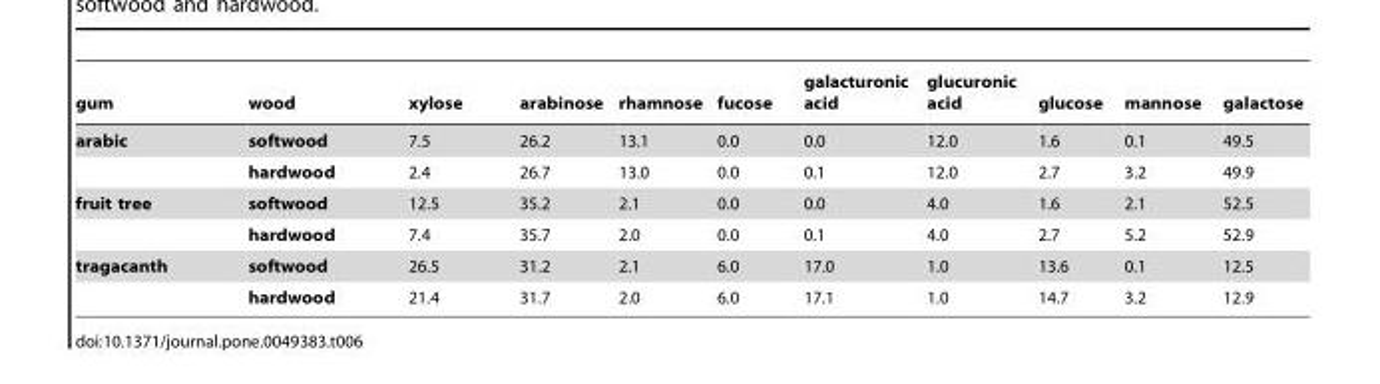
<table><thead><tr><td>gum</td><td>wood</td><td>xylose</td><td>arabinose</td><td>rhamnose</td><td>fucose</td><td>galacturonic acid</td><td>glucuronic acid</td><td>glucose</td><td>mannose</td><td>galactose</td></tr></thead><tbody><tr><td rowspan="2">arabic</td><td>softwood</td><td>7.5</td><td>26.2</td><td>13.1</td><td>0.0</td><td>0.0</td><td>12.0</td><td>1.6</td><td>0.1</td><td>49.5</td></tr><tr><td>hardwood</td><td>2.4</td><td>26.7</td><td>13.0</td><td>0.0</td><td>0.1</td><td>12.0</td><td>2.7</td><td>3.2</td><td>49.9</td></tr><tr><td rowspan="2">fruit tree</td><td>softwood</td><td>12.5</td><td>35.2</td><td>2.1</td><td>0.0</td><td>0.0</td><td>4.0</td><td>1.6</td><td>2.1</td><td>52.5</td></tr><tr><td>hardwood</td><td>7.4</td><td>35.7</td><td>2.0</td><td>0.0</td><td>0.1</td><td>4.0</td><td>2.7</td><td>5.2</td><td>52.9</td></tr><tr><td rowspan="2">tragacanth</td><td>softwood</td><td>26.5</td><td>31.2</td><td>2.1</td><td>6.0</td><td>17.0</td><td>1.0</td><td>13.6</td><td>0.1</td><td>12.5</td></tr><tr><td>hardwood</td><td>21.4</td><td>31.7</td><td>2.0</td><td>6.0</td><td>17.1</td><td>1.0</td><td>14.7</td><td>3.2</td><td>12.9</td></tr></tbody></table>